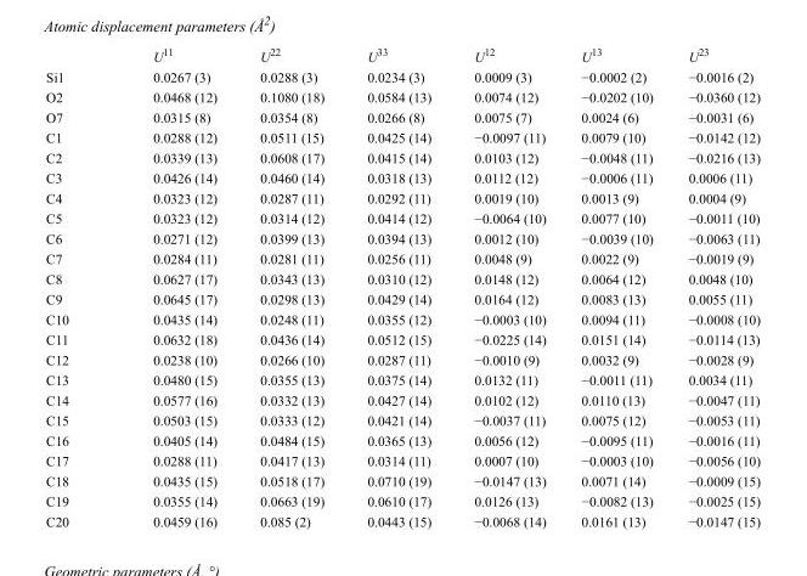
<table><thead><tr><td></td><td>U<sup>11</sup></td><td>U<sup>22</sup></td><td>U<sup>33</sup></td><td>U<sup>12</sup></td><td>U<sup>13</sup></td><td>U<sup>23</sup></td></tr></thead><tbody><tr><td>Si1</td><td>0.0267 (3)</td><td>0.0288 (3)</td><td>0.0234 (3)</td><td>0.0009 (3)</td><td>−0.0002 (2)</td><td>−0.0016 (2)</td></tr><tr><td>O2</td><td>0.0468 (12)</td><td>0.1080 (18)</td><td>0.0584 (13)</td><td>0.0074 (12)</td><td>−0.0202 (10)</td><td>−0.0360 (12)</td></tr><tr><td>O7</td><td>0.0315 (8)</td><td>0.0354 (8)</td><td>0.0266 (8)</td><td>0.0075 (7)</td><td>0.0024 (6)</td><td>−0.0031 (6)</td></tr><tr><td>C1</td><td>0.0288 (12)</td><td>0.0511 (15)</td><td>0.0425 (14)</td><td>−0.0097 (11)</td><td>0.0079 (10)</td><td>−0.0142 (12)</td></tr><tr><td>C2</td><td>0.0339 (13)</td><td>0.0608 (17)</td><td>0.0415 (14)</td><td>0.0103 (12)</td><td>−0.0048 (11)</td><td>−0.0216 (13)</td></tr><tr><td>C3</td><td>0.0426 (14)</td><td>0.0460 (14)</td><td>0.0318 (13)</td><td>0.0112 (12)</td><td>−0.0006 (11)</td><td>0.0006 (11)</td></tr><tr><td>C4</td><td>0.0323 (12)</td><td>0.0287 (11)</td><td>0.0292 (11)</td><td>0.0019 (10)</td><td>0.0013 (9)</td><td>0.0004 (9)</td></tr><tr><td>C5</td><td>0.0323 (12)</td><td>0.0314 (12)</td><td>0.0414 (12)</td><td>−0.0064 (10)</td><td>0.0077 (10)</td><td>−0.0011 (10)</td></tr><tr><td>C6</td><td>0.0271 (12)</td><td>0.0399 (13)</td><td>0.0394 (13)</td><td>0.0012 (10)</td><td>−0.0039 (10)</td><td>−0.0063 (11)</td></tr><tr><td>C7</td><td>0.0284 (11)</td><td>0.0281 (11)</td><td>0.0256 (11)</td><td>0.0048 (9)</td><td>0.0022 (9)</td><td>−0.0019 (9)</td></tr><tr><td>C8</td><td>0.0627 (17)</td><td>0.0343 (13)</td><td>0.0310 (12)</td><td>0.0148 (12)</td><td>0.0064 (12)</td><td>0.0048 (10)</td></tr><tr><td>C9</td><td>0.0645 (17)</td><td>0.0298 (13)</td><td>0.0429 (14)</td><td>0.0164 (12)</td><td>0.0083 (13)</td><td>0.0055 (11)</td></tr><tr><td>C10</td><td>0.0435 (14)</td><td>0.0248 (11)</td><td>0.0355 (12)</td><td>−0.0003 (10)</td><td>0.0094 (11)</td><td>−0.0008 (10)</td></tr><tr><td>C11</td><td>0.0632 (18)</td><td>0.0436 (14)</td><td>0.0512 (15)</td><td>−0.0225 (14)</td><td>0.0151 (14)</td><td>−0.0114 (13)</td></tr><tr><td>C12</td><td>0.0238 (10)</td><td>0.0266 (10)</td><td>0.0287 (11)</td><td>−0.0010 (9)</td><td>0.0032 (9)</td><td>−0.0028 (9)</td></tr><tr><td>C13</td><td>0.0480 (15)</td><td>0.0355 (13)</td><td>0.0375 (14)</td><td>0.0132 (11)</td><td>−0.0011 (11)</td><td>0.0034 (11)</td></tr><tr><td>C14</td><td>0.0577 (16)</td><td>0.0332 (13)</td><td>0.0427 (14)</td><td>0.0102 (12)</td><td>0.0110 (13)</td><td>−0.0047 (11)</td></tr><tr><td>C15</td><td>0.0503 (15)</td><td>0.0333 (12)</td><td>0.0421 (14)</td><td>−0.0037 (11)</td><td>0.0075 (12)</td><td>−0.0053 (11)</td></tr><tr><td>C16</td><td>0.0405 (14)</td><td>0.0484 (15)</td><td>0.0365 (13)</td><td>0.0056 (12)</td><td>−0.0095 (11)</td><td>−0.0016 (11)</td></tr><tr><td>C17</td><td>0.0288 (11)</td><td>0.0417 (13)</td><td>0.0314 (11)</td><td>0.0007 (10)</td><td>−0.0003 (10)</td><td>−0.0056 (10)</td></tr><tr><td>C18</td><td>0.0435 (15)</td><td>0.0518 (17)</td><td>0.0710 (19)</td><td>−0.0147 (13)</td><td>0.0071 (14)</td><td>−0.0009 (15)</td></tr><tr><td>C19</td><td>0.0355 (14)</td><td>0.0663 (19)</td><td>0.0610 (17)</td><td>0.0126 (13)</td><td>−0.0082 (13)</td><td>−0.0025 (15)</td></tr><tr><td>C20</td><td>0.0459 (16)</td><td>0.085 (2)</td><td>0.0443 (15)</td><td>−0.0068 (14)</td><td>0.0161 (13)</td><td>−0.0147 (15)</td></tr></tbody></table>